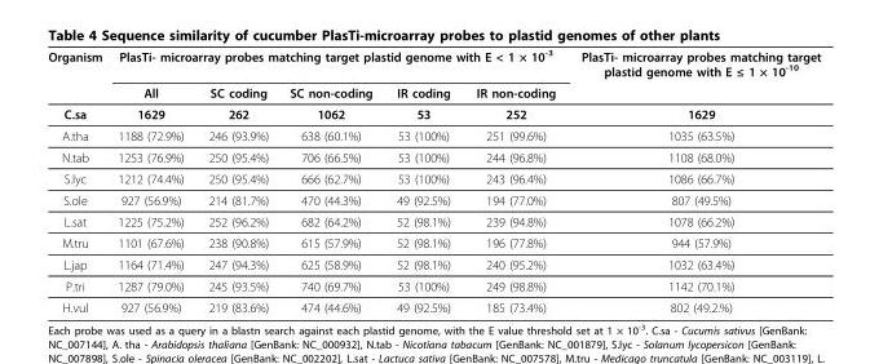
<table><thead><tr><td rowspan="2">Organism</td><td colspan="5">PlasTi- microarray probes matching target plastid genome with E &lt; 1 × 10<sup>-3</sup></td><td rowspan="2">PlasTi- microarray probes matching target plastid genome with E ≤ 1 × 10<sup>-10</sup></td></tr><tr><td>All</td><td>SC coding</td><td>SC non-coding</td><td>IR coding</td><td>IR non-coding</td></tr></thead><tbody><tr><td>C.sa</td><td>1629</td><td>262</td><td>1062</td><td>53</td><td>252</td><td>1629</td></tr><tr><td>A.tha</td><td>1188 (72.9%)</td><td>246 (93.9%)</td><td>638 (60.1%)</td><td>53 (100%)</td><td>251 (99.6%)</td><td>1035 (63.5%)</td></tr><tr><td>N.tab</td><td>1253 (76.9%)</td><td>250 (95.4%)</td><td>706 (66.5%)</td><td>53 (100%)</td><td>244 (96.8%)</td><td>1108 (68.0%)</td></tr><tr><td>S.lyc</td><td>1212 (74.4%)</td><td>250 (95.4%)</td><td>666 (62.7%)</td><td>53 (100%)</td><td>243 (96.4%)</td><td>1086 (66.7%)</td></tr><tr><td>S.ole</td><td>927 (56.9%)</td><td>214 (81.7%)</td><td>470 (44.3%)</td><td>49 (92.5%)</td><td>194 (77.0%)</td><td>807 (49.5%)</td></tr><tr><td>L.sat</td><td>1225 (75.2%)</td><td>252 (96.2%)</td><td>682 (64.2%)</td><td>52 (98.1%)</td><td>239 (94.8%)</td><td>1078 (66.2%)</td></tr><tr><td>M.tru</td><td>1101 (67.6%)</td><td>238 (90.8%)</td><td>615 (57.9%)</td><td>52 (98.1%)</td><td>196 (77.8%)</td><td>944 (57.9%)</td></tr><tr><td>L.jap</td><td>1164 (71.4%)</td><td>247 (94.3%)</td><td>625 (58.9%)</td><td>52 (98.1%)</td><td>240 (95.2%)</td><td>1032 (63.4%)</td></tr><tr><td>P.tri</td><td>1287 (79.0%)</td><td>245 (93.5%)</td><td>740 (69.7%)</td><td>53 (100%)</td><td>249 (98.8%)</td><td>1142 (70.1%)</td></tr><tr><td>H.vul</td><td>927 (56.9%)</td><td>219 (83.6%)</td><td>474 (44.6%)</td><td>49 (92.5%)</td><td>185 (73.4%)</td><td>802 (49.2.%)</td></tr></tbody></table>